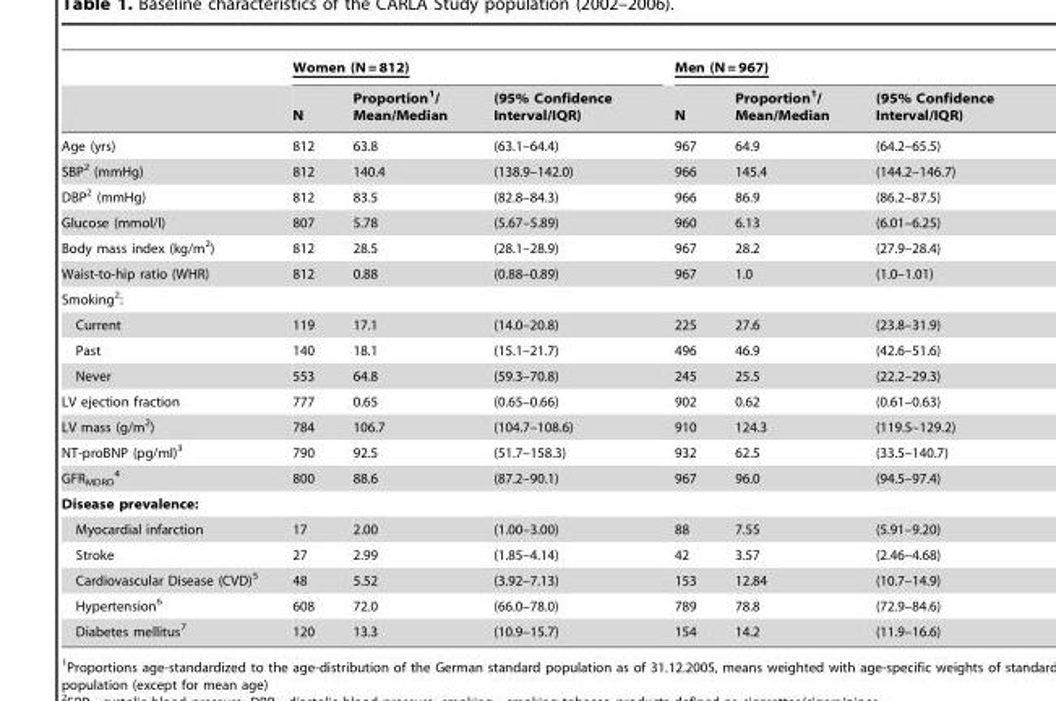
<table><thead><tr><td rowspan="2"></td><td colspan="3">Women (N = 812)</td><td colspan="3">Men (N = 967)</td></tr><tr><td>N</td><td>Proportion<sup>1</sup>/ Mean/Median</td><td>(95% Confidence Interval/IQR)</td><td>N</td><td>Proportion<sup>1</sup>/ Mean/Median</td><td>(95% Confidence Interval/IQR)</td></tr></thead><tbody><tr><td>Age (yrs)</td><td>812</td><td>63.8</td><td>(63.1–64.4)</td><td>967</td><td>64.9</td><td>(64.2–65.5)</td></tr><tr><td>SBP<sup>2</sup> (mmHg)</td><td>812</td><td>140.4</td><td>(138.9–142.0)</td><td>966</td><td>145.4</td><td>(144.2–146.7)</td></tr><tr><td>DBP<sup>2</sup> (mmHg)</td><td>812</td><td>83.5</td><td>(82.8–84.3)</td><td>966</td><td>86.9</td><td>(86.2–87.5)</td></tr><tr><td>Glucose (mmol/l)</td><td>807</td><td>5.78</td><td>(5.67–5.89)</td><td>960</td><td>6.13</td><td>(6.01–6.25)</td></tr><tr><td>Body mass index (kg/m<sup>2</sup>)</td><td>812</td><td>28.5</td><td>(28.1–28.9)</td><td>967</td><td>28.2</td><td>(27.9–28.4)</td></tr><tr><td>Waist-to-hip ratio (WHR)</td><td>812</td><td>0.88</td><td>(0.88–0.89)</td><td>967</td><td>1.0</td><td>(1.0–1.01)</td></tr><tr><td colspan="7">Smoking<sup>2</sup>:</td></tr><tr><td>Current</td><td>119</td><td>17.1</td><td>(14.0–20.8)</td><td>225</td><td>27.6</td><td>(23.8–31.9)</td></tr><tr><td>Past</td><td>140</td><td>18.1</td><td>(15.1–21.7)</td><td>496</td><td>46.9</td><td>(42.6–51.6)</td></tr><tr><td>Never</td><td>553</td><td>64.8</td><td>(59.3–70.8)</td><td>245</td><td>25.5</td><td>(22.2–29.3)</td></tr><tr><td>LV ejection fraction</td><td>777</td><td>0.65</td><td>(0.65–0.66)</td><td>902</td><td>0.62</td><td>(0.61–0.63)</td></tr><tr><td>LV mass (g/m<sup>2</sup>)</td><td>784</td><td>106.7</td><td>(104.7–108.6)</td><td>910</td><td>124.3</td><td>(119.5–129.2)</td></tr><tr><td>NT-proBNP (pg/ml)<sup>3</sup></td><td>790</td><td>92.5</td><td>(51.7–158.3)</td><td>932</td><td>62.5</td><td>(33.5–140.7)</td></tr><tr><td>GFR<sub>MDRD</sub> 4</td><td>800</td><td>88.6</td><td>(87.2–90.1)</td><td>967</td><td>96.0</td><td>(94.5–97.4)</td></tr><tr><td colspan="7">Disease prevalence:</td></tr><tr><td>Myocardial infarction</td><td>17</td><td>2.00</td><td>(1.00–3.00)</td><td>88</td><td>7.55</td><td>(5.91–9.20)</td></tr><tr><td>Stroke</td><td>27</td><td>2.99</td><td>(1.85–4.14)</td><td>42</td><td>3.57</td><td>(2.46–4.68)</td></tr><tr><td>Cardiovascular Disease (CVD)<sup>5</sup></td><td>48</td><td>5.52</td><td>(3.92–7.13)</td><td>153</td><td>12.84</td><td>(10.7–14.9)</td></tr><tr><td>Hypertension<sup>6</sup></td><td>608</td><td>72.0</td><td>(66.0–78.0)</td><td>789</td><td>78.8</td><td>(72.9–84.6)</td></tr><tr><td>Diabetes mellitus<sup>7</sup></td><td>120</td><td>13.3</td><td>(10.9–15.7)</td><td>154</td><td>14.2</td><td>(11.9–16.6)</td></tr></tbody></table>